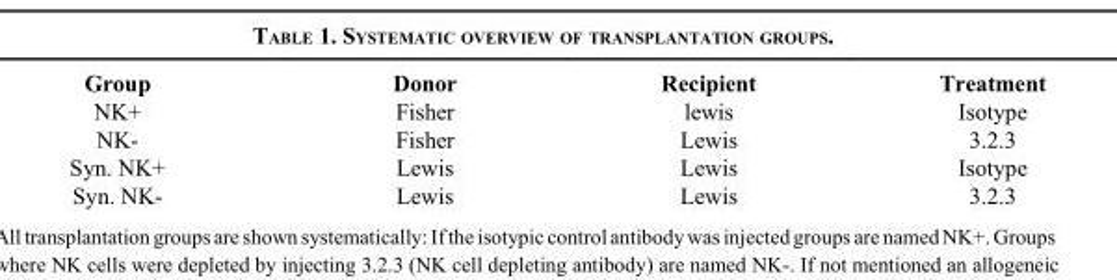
<table><thead><tr><td>Group</td><td>Donor</td><td>Recipient</td><td>Treatment</td></tr></thead><tbody><tr><td>NK+</td><td>Fisher</td><td>lewis</td><td>Isotype</td></tr><tr><td>NK-</td><td>Fisher</td><td>Lewis</td><td>3.2.3</td></tr><tr><td>Syn. NK+</td><td>Lewis</td><td>Lewis</td><td>Isotype</td></tr><tr><td>Syn. NK-</td><td>Lewis</td><td>Lewis</td><td>3.2.3</td></tr></tbody></table>